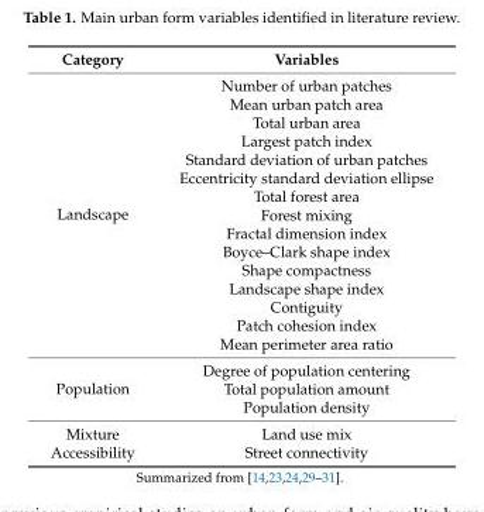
<table><thead><tr><td>Category</td><td>Variables</td></tr></thead><tbody><tr><td rowspan="15">Landscape</td><td>Number of urban patches</td></tr><tr><td>Mean urban patch area</td></tr><tr><td>Total urban area</td></tr><tr><td>Largest patch index</td></tr><tr><td>Standard deviation of urban patches</td></tr><tr><td>Eccentricity standard deviation ellipse</td></tr><tr><td>Total forest area</td></tr><tr><td>Forest mixing</td></tr><tr><td>Fractal dimension index</td></tr><tr><td>Boyce–Clark shape index</td></tr><tr><td>Shape compactness</td></tr><tr><td>Landscape shape index</td></tr><tr><td>Contiguity</td></tr><tr><td>Patch cohesion index</td></tr><tr><td>Mean perimeter area ratio</td></tr><tr><td rowspan="3">Population</td><td>Degree of population centering</td></tr><tr><td>Total population amount</td></tr><tr><td>Population density</td></tr><tr><td>Mixture</td><td>Land use mix</td></tr><tr><td>Accessibility</td><td>Street connectivity</td></tr></tbody></table>